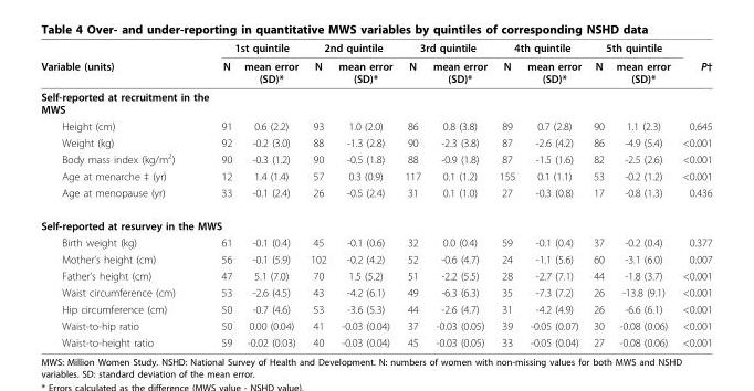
<table><thead><tr><td rowspan="2">Variable (units)</td><td colspan="2">1st quintile</td><td colspan="2">2nd quintile</td><td colspan="2">3rd quintile</td><td colspan="2">4th quintile</td><td colspan="2">5th quintile</td><td rowspan="2">P†</td></tr><tr><td>N</td><td>mean error (SD)*</td><td>N</td><td>mean error (SD)*</td><td>N</td><td>mean error (SD)*</td><td>N</td><td>mean error (SD)*</td><td>N</td><td>mean error (SD)*</td></tr></thead><tbody><tr><td colspan="12">Self-reported at recruitment in the MWS</td></tr><tr><td>Height (cm)</td><td>91</td><td>0.6 (2.2)</td><td>93</td><td>1.0 (2.0)</td><td>86</td><td>0.8 (3.8)</td><td>89</td><td>0.7 (2.8)</td><td>90</td><td>1.1 (2.3)</td><td>0.645</td></tr><tr><td>Weight (kg)</td><td>92</td><td>-0.2 (3.0)</td><td>88</td><td>-1.3 (2.8)</td><td>90</td><td>-2.3 (3.8)</td><td>87</td><td>-2.6 (4.2)</td><td>86</td><td>-4.9 (5.4)</td><td>&lt;0.001</td></tr><tr><td>Body mass index (kg/m<sup>2</sup>)</td><td>90</td><td>-0.3 (1.2)</td><td>90</td><td>-0.5 (1.8)</td><td>88</td><td>-0.9 (1.8)</td><td>87</td><td>-1.5 (1.6)</td><td>82</td><td>-2.5 (2.6)</td><td>&lt;0.001</td></tr><tr><td>Age at menarche ‡ (yr)</td><td>12</td><td>1.4 (1.4)</td><td>57</td><td>0.3 (0.9)</td><td>117</td><td>0.1 (1.2)</td><td>155</td><td>0.1 (1.1)</td><td>53</td><td>-0.2 (1.2)</td><td>&lt;0.001</td></tr><tr><td>Age at menopause (yr)</td><td>33</td><td>-0.1 (2.4)</td><td>26</td><td>-0.5 (2.4)</td><td>31</td><td>0.1 (1.0)</td><td>27</td><td>-0.3 (0.8)</td><td>17</td><td>-0.8 (1.3)</td><td>0.436</td></tr><tr><td colspan="12">Self-reported at resurvey in the MWS</td></tr><tr><td>Birth weight (kg)</td><td>61</td><td>-0.1 (0.4)</td><td>45</td><td>-0.1 (0.6)</td><td>32</td><td>0.0 (0.4)</td><td>59</td><td>-0.1 (0.4)</td><td>37</td><td>-0.2 (0.4)</td><td>0.377</td></tr><tr><td>Mother’s height (cm)</td><td>56</td><td>-0.1 (5.9)</td><td>102</td><td>-0.2 (4.2)</td><td>52</td><td>-0.6 (4.7)</td><td>24</td><td>-1.1 (5.6)</td><td>60</td><td>-3.1 (6.0)</td><td>0.007</td></tr><tr><td>Father’s height (cm)</td><td>47</td><td>5.1 (7.0)</td><td>70</td><td>1.5 (5.2)</td><td>51</td><td>-2.2 (5.5)</td><td>28</td><td>-2.7 (7.1)</td><td>44</td><td>-1.8 (3.7)</td><td>&lt;0.001</td></tr><tr><td>Waist circumference (cm)</td><td>53</td><td>-2.6 (4.5)</td><td>43</td><td>-4.2 (6.1)</td><td>49</td><td>-6.3 (6.3)</td><td>35</td><td>-7.3 (7.2)</td><td>26</td><td>-13.8 (9.1)</td><td>&lt;0.001</td></tr><tr><td>Hip circumference (cm)</td><td>50</td><td>-0.7 (4.6)</td><td>53</td><td>-3.6 (5.3)</td><td>44</td><td>-2.6 (4.7)</td><td>31</td><td>-4.2 (4.9)</td><td>26</td><td>-6.6 (6.1)</td><td>&lt;0.001</td></tr><tr><td>Waist-to-hip ratio</td><td>50</td><td>0.00 (0.04)</td><td>41</td><td>-0.03 (0.04)</td><td>37</td><td>-0.03 (0.05)</td><td>39</td><td>-0.05 (0.07)</td><td>30</td><td>-0.08 (0.06)</td><td>&lt;0.001</td></tr><tr><td>Waist-to-height ratio</td><td>59</td><td>-0.02 (0.03)</td><td>40</td><td>-0.03 (0.04)</td><td>45</td><td>-0.03 (0.05)</td><td>33</td><td>-0.05 (0.04)</td><td>27</td><td>-0.08 (0.06)</td><td>&lt;0.001</td></tr></tbody></table>